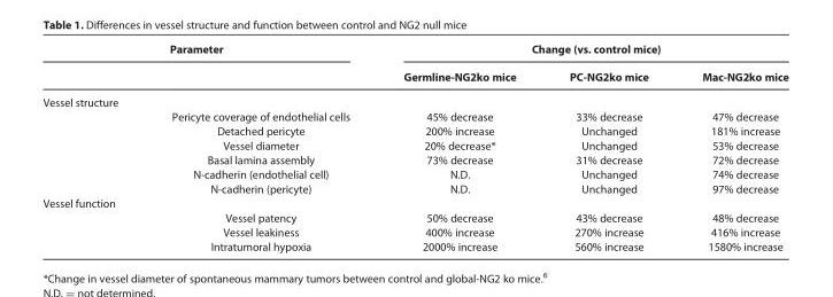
<table><thead><tr><td colspan="2">Parameter</td><td colspan="3">Change (vs. control mice)</td></tr><tr><td></td><td></td><td>Germline-NG2ko mice</td><td>PC-NG2ko mice</td><td>Mac-NG2ko mice</td></tr></thead><tbody><tr><td colspan="5">Vessel structure</td></tr><tr><td></td><td>Pericyte coverage of endothelial cells</td><td>45% decrease</td><td>33% decrease</td><td>47% decrease</td></tr><tr><td></td><td>Detached pericyte</td><td>200% increase</td><td>Unchanged</td><td>181% increase</td></tr><tr><td></td><td>Vessel diameter</td><td>20% decrease*</td><td>Unchanged</td><td>53% decrease</td></tr><tr><td></td><td>Basal lamina assembly</td><td>73% decrease</td><td>31% decrease</td><td>72% decrease</td></tr><tr><td></td><td>N-cadherin (endothelial cell)</td><td>N.D.</td><td>Unchanged</td><td>74% decrease</td></tr><tr><td></td><td>N-cadherin (pericyte)</td><td>N.D.</td><td>Unchanged</td><td>97% decrease</td></tr><tr><td colspan="5">Vessel function</td></tr><tr><td></td><td>Vessel patency</td><td>50% decrease</td><td>43% decrease</td><td>48% decrease</td></tr><tr><td></td><td>Vessel leakiness</td><td>400% increase</td><td>270% increase</td><td>416% increase</td></tr><tr><td></td><td>Intratumoral hypoxia</td><td>2000% increase</td><td>560% increase</td><td>1580% increase</td></tr></tbody></table>